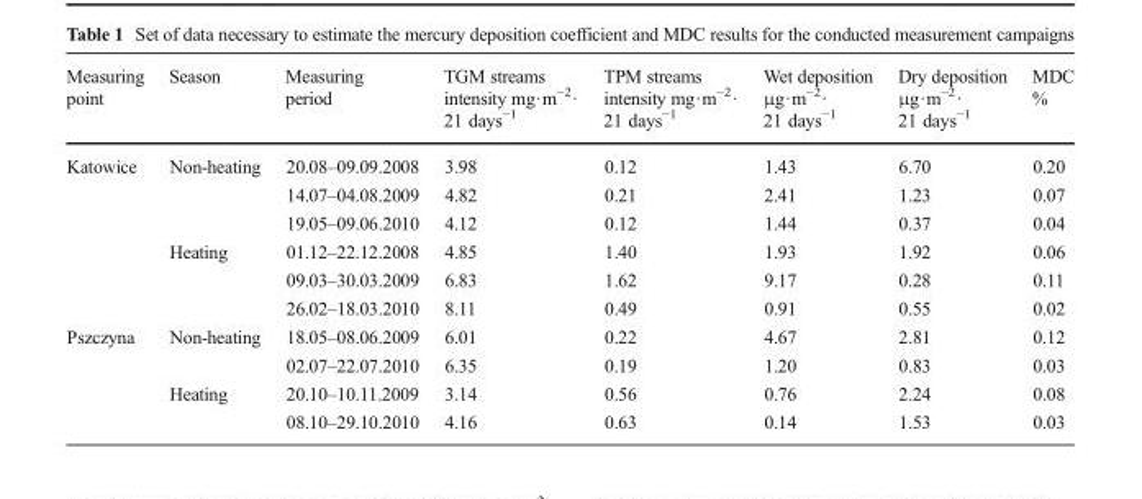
<table><thead><tr><td>Measuring point</td><td>Season</td><td>Measuring period</td><td>TGM streams intensity mg·m<sup>−2</sup>· 21 days<sup>−1</sup></td><td>TPM streams intensity mg·m<sup>−2</sup>· 21 days<sup>−1</sup></td><td>Wet deposition μg·m<sup>−2</sup>· 21 days<sup>−1</sup></td><td>Dry deposition μg·m<sup>−2</sup>· 21 days<sup>−1</sup></td><td>MDC %</td></tr></thead><tbody><tr><td rowspan="6">Katowice</td><td rowspan="3">Non-heating</td><td>20.08–09.09.2008</td><td>3.98</td><td>0.12</td><td>1.43</td><td>6.70</td><td>0.20</td></tr><tr><td>14.07–04.08.2009</td><td>4.82</td><td>0.21</td><td>2.41</td><td>1.23</td><td>0.07</td></tr><tr><td>19.05–09.06.2010</td><td>4.12</td><td>0.12</td><td>1.44</td><td>0.37</td><td>0.04</td></tr><tr><td rowspan="3">Heating</td><td>01.12–22.12.2008</td><td>4.85</td><td>1.40</td><td>1.93</td><td>1.92</td><td>0.06</td></tr><tr><td>09.03–30.03.2009</td><td>6.83</td><td>1.62</td><td>9.17</td><td>0.28</td><td>0.11</td></tr><tr><td>26.02–18.03.2010</td><td>8.11</td><td>0.49</td><td>0.91</td><td>0.55</td><td>0.02</td></tr><tr><td rowspan="4">Pszczyna</td><td rowspan="2">Non-heating</td><td>18.05–08.06.2009</td><td>6.01</td><td>0.22</td><td>4.67</td><td>2.81</td><td>0.12</td></tr><tr><td>02.07–22.07.2010</td><td>6.35</td><td>0.19</td><td>1.20</td><td>0.83</td><td>0.03</td></tr><tr><td rowspan="2">Heating</td><td>20.10–10.11.2009</td><td>3.14</td><td>0.56</td><td>0.76</td><td>2.24</td><td>0.08</td></tr><tr><td>08.10–29.10.2010</td><td>4.16</td><td>0.63</td><td>0.14</td><td>1.53</td><td>0.03</td></tr></tbody></table>